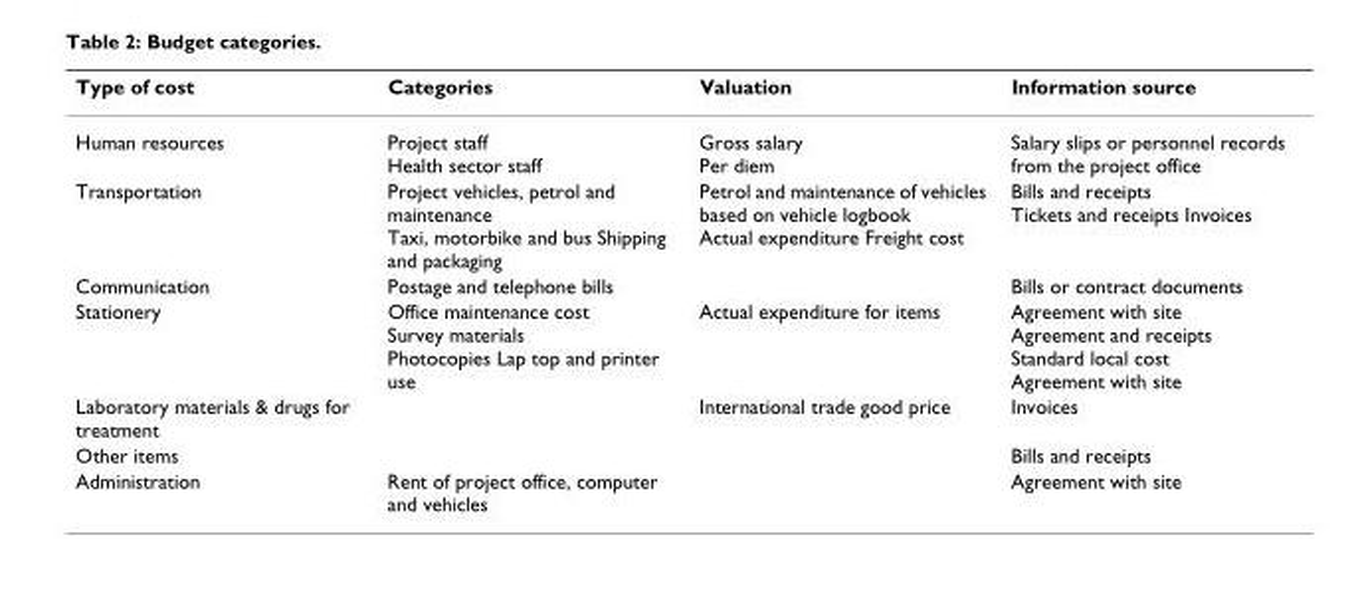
<table><thead><tr><td>Type of cost</td><td>Categories</td><td>Valuation</td><td>Information source</td></tr></thead><tbody><tr><td>Human resources</td><td>Project staff Health sector staff</td><td>Gross salary Per diem</td><td>Salary slips or personnel records from the project office</td></tr><tr><td>Transportation</td><td>Project vehicles, petrol and maintenance Taxi, motorbike and bus Shipping and packaging</td><td>Petrol and maintenance of vehicles based on vehicle logbook Actual expenditure Freight cost</td><td>Bills and receipts Tickets and receipts Invoices</td></tr><tr><td>Communication</td><td>Postage and telephone bills</td><td></td><td>Bills or contract documents</td></tr><tr><td>Stationery</td><td>Office maintenance cost Survey materials Photocopies Lap top and printer use</td><td>Actual expenditure for items</td><td>Agreement with site Agreement and receipts Standard local cost Agreement with site</td></tr><tr><td>Laboratory materials &amp; drugs for treatment</td><td></td><td>International trade good price</td><td>Invoices</td></tr><tr><td>Other items</td><td></td><td></td><td>Bills and receipts</td></tr><tr><td>Administration</td><td>Rent of project office, computer and vehicles</td><td></td><td>Agreement with site</td></tr></tbody></table>